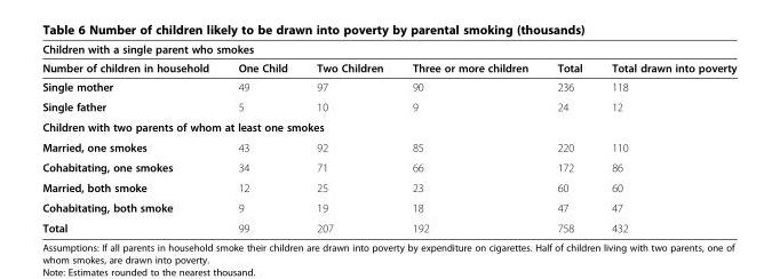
<table><thead><tr><td colspan="6">Children with a single parent who smokes</td></tr><tr><td>Number of children in household</td><td>One Child</td><td>Two Children</td><td>Three or more children</td><td>Total</td><td>Total drawn into poverty</td></tr></thead><tbody><tr><td>Single mother</td><td>49</td><td>97</td><td>90</td><td>236</td><td>118</td></tr><tr><td>Single father</td><td>5</td><td>10</td><td>9</td><td>24</td><td>12</td></tr><tr><td colspan="6">Children with two parents of whom at least one smokes</td></tr><tr><td>Married, one smokes</td><td>43</td><td>92</td><td>85</td><td>220</td><td>110</td></tr><tr><td>Cohabitating, one smokes</td><td>34</td><td>71</td><td>66</td><td>172</td><td>86</td></tr><tr><td>Married, both smoke</td><td>12</td><td>25</td><td>23</td><td>60</td><td>60</td></tr><tr><td>Cohabitating, both smoke</td><td>9</td><td>19</td><td>18</td><td>47</td><td>47</td></tr><tr><td>Total</td><td>99</td><td>207</td><td>192</td><td>758</td><td>432</td></tr></tbody></table>